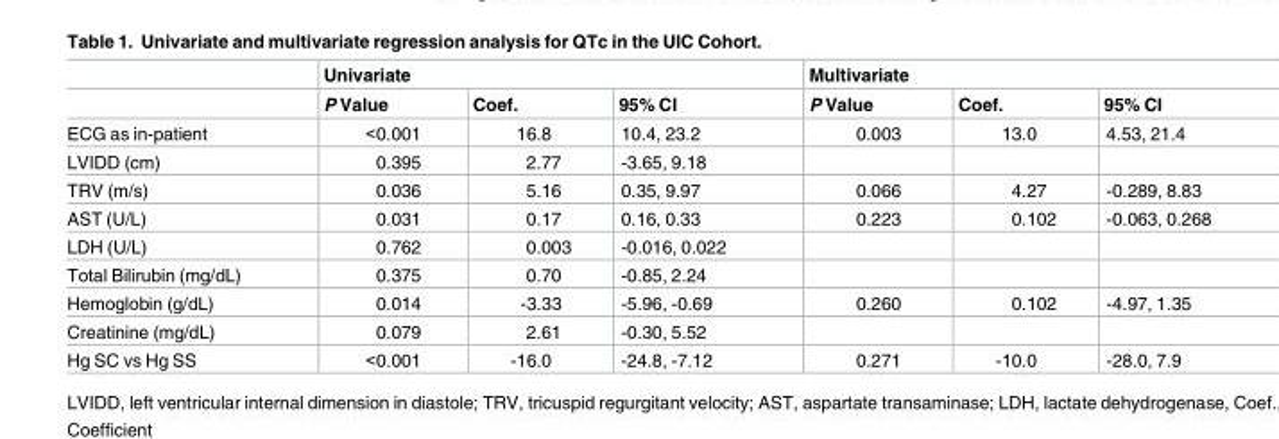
<table><thead><tr><td rowspan="2"></td><td colspan="3">Univariate</td><td colspan="3">Multivariate</td></tr><tr><td>P Value</td><td>Coef.</td><td>95% CI</td><td>P Value</td><td>Coef.</td><td>95% CI</td></tr></thead><tbody><tr><td>ECG as in-patient</td><td>&lt;0.001</td><td>16.8</td><td>10.4, 23.2</td><td>0.003</td><td>13.0</td><td>4.53, 21.4</td></tr><tr><td>LVIDD (cm)</td><td>0.395</td><td>2.77</td><td>-3.65, 9.18</td><td></td><td></td><td></td></tr><tr><td>TRV (m/s)</td><td>0.036</td><td>5.16</td><td>0.35, 9.97</td><td>0.066</td><td>4.27</td><td>-0.289, 8.83</td></tr><tr><td>AST (U/L)</td><td>0.031</td><td>0.17</td><td>0.16, 0.33</td><td>0.223</td><td>0.102</td><td>-0.063, 0.268</td></tr><tr><td>LDH (U/L)</td><td>0.762</td><td>0.003</td><td>-0.016, 0.022</td><td></td><td></td><td></td></tr><tr><td>Total Bilirubin (mg/dL)</td><td>0.375</td><td>0.70</td><td>-0.85, 2.24</td><td></td><td></td><td></td></tr><tr><td>Hemoglobin (g/dL)</td><td>0.014</td><td>-3.33</td><td>-5.96, -0.69</td><td>0.260</td><td>0.102</td><td>-4.97, 1.35</td></tr><tr><td>Creatinine (mg/dL)</td><td>0.079</td><td>2.61</td><td>-0.30, 5.52</td><td></td><td></td><td></td></tr><tr><td>Hg SC vs Hg SS</td><td>&lt;0.001</td><td>-16.0</td><td>-24.8, -7.12</td><td>0.271</td><td>-10.0</td><td>-28.0, 7.9</td></tr></tbody></table>